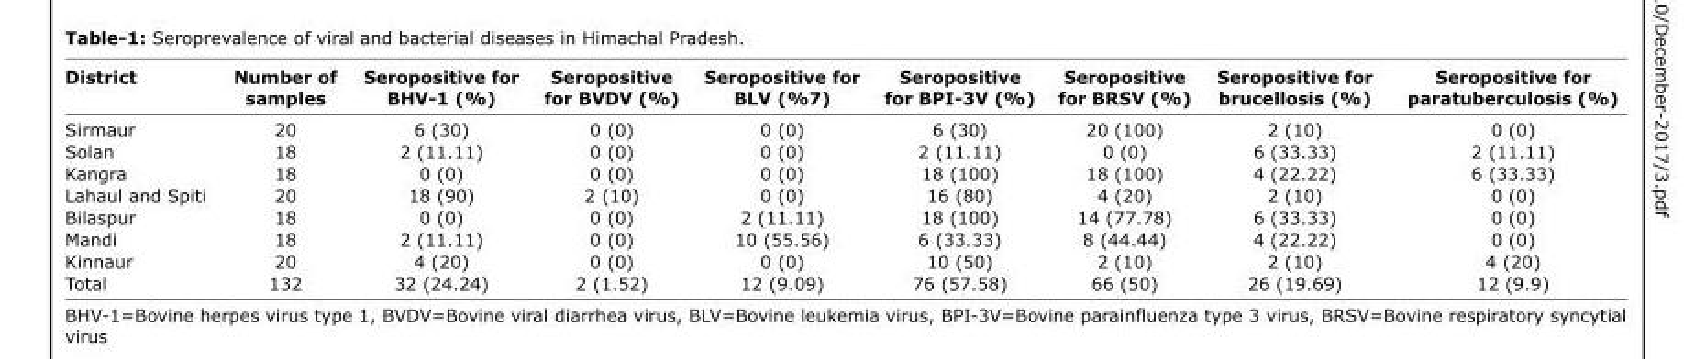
<table><thead><tr><td>District</td><td>Number of samples</td><td>Seropositive for BHV-1 (%)</td><td>Seropositive for BVDV (%)</td><td>Seropositive for BLV (%7)</td><td>Seropositive for BPI-3V (%)</td><td>Seropositive for BRSV (%)</td><td>Seropositive for brucellosis (%)</td><td>Seropositive for paratuberculosis (%)</td></tr></thead><tbody><tr><td>Sirmaur</td><td>20</td><td>6 (30)</td><td>0 (0)</td><td>0 (0)</td><td>6 (30)</td><td>20 (100)</td><td>2 (10)</td><td>0 (0)</td></tr><tr><td>Solan</td><td>18</td><td>2 (11.11)</td><td>0 (0)</td><td>0 (0)</td><td>2 (11.11)</td><td>0 (0)</td><td>6 (33.33)</td><td>2 (11.11)</td></tr><tr><td>Kangra</td><td>18</td><td>0 (0)</td><td>0 (0)</td><td>0 (0)</td><td>18 (100)</td><td>18 (100)</td><td>4 (22.22)</td><td>6 (33.33)</td></tr><tr><td>Lahaul and Spiti</td><td>20</td><td>18 (90)</td><td>2 (10)</td><td>0 (0)</td><td>16 (80)</td><td>4 (20)</td><td>2 (10)</td><td>0 (0)</td></tr><tr><td>Bilaspur</td><td>18</td><td>0 (0)</td><td>0 (0)</td><td>2 (11.11)</td><td>18 (100)</td><td>14 (77.78)</td><td>6 (33.33)</td><td>0 (0)</td></tr><tr><td>Mandi</td><td>18</td><td>2 (11.11)</td><td>0 (0)</td><td>10 (55.56)</td><td>6 (33.33)</td><td>8 (44.44)</td><td>4 (22.22)</td><td>0 (0)</td></tr><tr><td>Kinnaur</td><td>20</td><td>4 (20)</td><td>0 (0)</td><td>0 (0)</td><td>10 (50)</td><td>2 (10)</td><td>2 (10)</td><td>4 (20)</td></tr><tr><td>Total</td><td>132</td><td>32 (24.24)</td><td>2 (1.52)</td><td>12 (9.09)</td><td>76 (57.58)</td><td>66 (50)</td><td>26 (19.69)</td><td>12 (9.9)</td></tr></tbody></table>